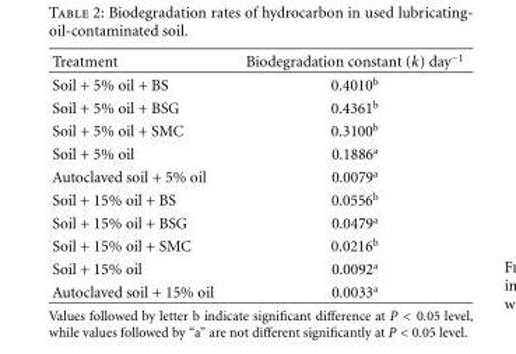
<table><thead><tr><td>Treatment</td><td>Biodegradation constant (k) day<sup>−1</sup></td></tr></thead><tbody><tr><td>Soil + 5% oil + BS</td><td>0.4010<sup>b</sup></td></tr><tr><td>Soil + 5% oil + BSG</td><td>0.4361<sup>b</sup></td></tr><tr><td>Soil + 5% oil + SMC</td><td>0.3100<sup>b</sup></td></tr><tr><td>Soil + 5% oil</td><td>0.1886<sup>a</sup></td></tr><tr><td>Autoclaved soil + 5% oil</td><td>0.0079<sup>a</sup></td></tr><tr><td>Soil + 15% oil + BS</td><td>0.0556<sup>b</sup></td></tr><tr><td>Soil + 15% oil + BSG</td><td>0.0479<sup>a</sup></td></tr><tr><td>Soil + 15% oil + SMC</td><td>0.0216<sup>b</sup></td></tr><tr><td>Soil + 15% oil</td><td>0.0092<sup>a</sup></td></tr><tr><td>Autoclaved soil + 15% oil</td><td>0.0033<sup>a</sup></td></tr></tbody></table>